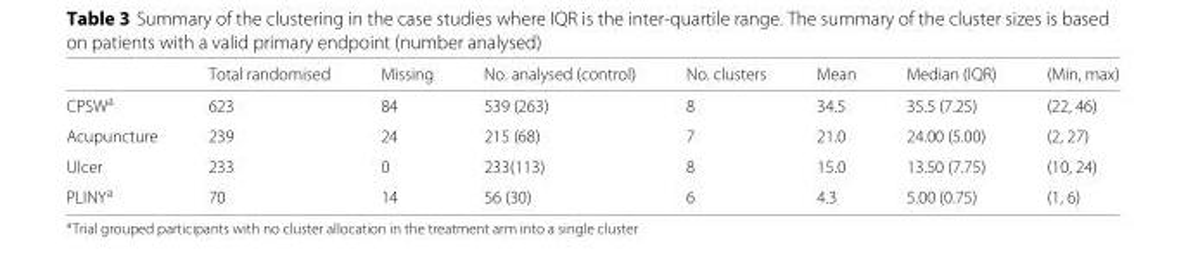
<table><thead><tr><td></td><td>Total randomised</td><td>Missing</td><td>No. analysed (control)</td><td>No. clusters</td><td>Mean</td><td>Median (IQR)</td><td>(Min, max)</td></tr></thead><tbody><tr><td>CPSW<sup>a</sup></td><td>623</td><td>84</td><td>539 (263)</td><td>8</td><td>34.5</td><td>35.5 (7.25)</td><td>(22, 46)</td></tr><tr><td>Acupuncture</td><td>239</td><td>24</td><td>215 (68)</td><td>7</td><td>21.0</td><td>24.00 (5.00)</td><td>(2, 27)</td></tr><tr><td>Ulcer</td><td>233</td><td>0</td><td>233(113)</td><td>8</td><td>15.0</td><td>13.50 (7.75)</td><td>(10, 24)</td></tr><tr><td>PLINY<sup>a</sup></td><td>70</td><td>14</td><td>56 (30)</td><td>6</td><td>4.3</td><td>5.00 (0.75)</td><td>(1, 6)</td></tr></tbody></table>